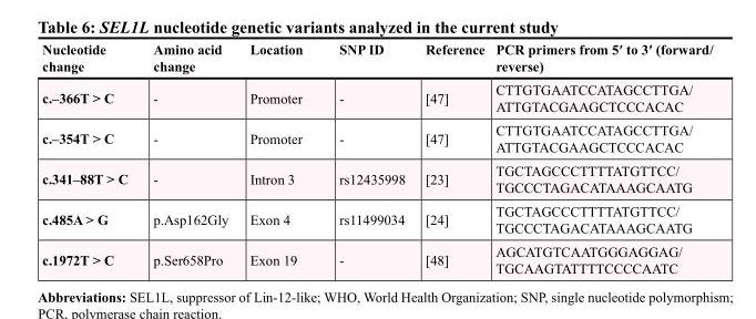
<table><thead><tr><td>Nucleotide change</td><td>Amino acid change</td><td>Location</td><td>SNP ID</td><td>Reference</td><td>PCR primers from 5′ to 3′ (forward/ reverse)</td></tr></thead><tbody><tr><td>c.–366T &gt; C</td><td>-</td><td>Promoter</td><td>-</td><td>[47]</td><td>CTTGTGAATCCATAGCCTTGA/ ATTGTACGAAGCTCCCACAC</td></tr><tr><td>c.–354T &gt; C</td><td>-</td><td>Promoter</td><td>-</td><td>[47]</td><td>CTTGTGAATCCATAGCCTTGA/ ATTGTACGAAGCTCCCACAC</td></tr><tr><td>c.341–88T &gt; C</td><td>-</td><td>Intron 3</td><td>rs12435998</td><td>[23]</td><td>TGCTAGCCCTTTTATGTTCC/ TGCCCTAGACATAAAGCAATG</td></tr><tr><td>c.485A &gt; G</td><td>p.Asp162Gly</td><td>Exon 4</td><td>rs11499034</td><td>[24]</td><td>TGCTAGCCCTTTTATGTTCC/ TGCCCTAGACATAAAGCAATG</td></tr><tr><td>c.1972T &gt; C</td><td>p.Ser658Pro</td><td>Exon 19</td><td>-</td><td>[48]</td><td>AGCATGTCAATGGGAGGAG/ TGCAAGTATTTTCCCCAATC</td></tr></tbody></table>